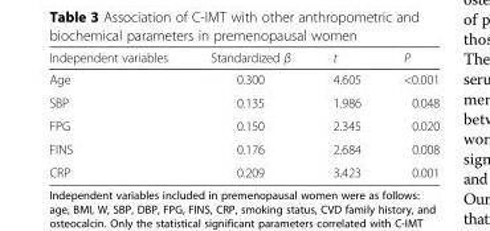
<table><thead><tr><td>Independent variables</td><td>Standardized β</td><td>t</td><td>P</td></tr></thead><tbody><tr><td>Age</td><td>0.300</td><td>4.605</td><td>&lt;0.001</td></tr><tr><td>SBP</td><td>0.135</td><td>1.986</td><td>0.048</td></tr><tr><td>FPG</td><td>0.150</td><td>2.345</td><td>0.020</td></tr><tr><td>FINS</td><td>0.176</td><td>2.684</td><td>0.008</td></tr><tr><td>CRP</td><td>0.209</td><td>3.423</td><td>0.001</td></tr></tbody></table>